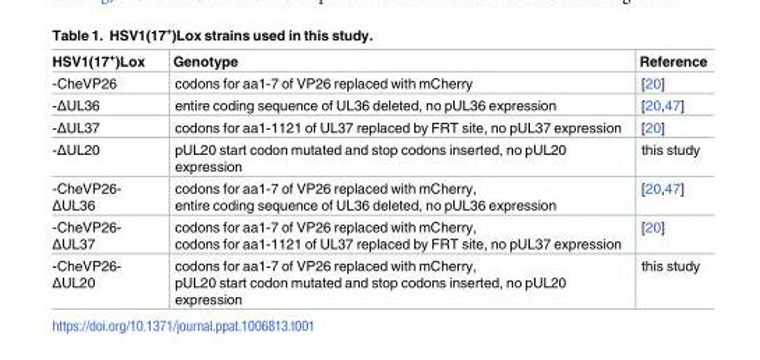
<table><thead><tr><td>HSV1(17<sup>+</sup>)Lox</td><td>Genotype</td><td>Reference</td></tr></thead><tbody><tr><td>-CheVP26</td><td>codons for aa1-7 of VP26 replaced with mCherry</td><td>[20]</td></tr><tr><td>-ΔUL36</td><td>entire coding sequence of UL36 deleted, no pUL36 expression</td><td>[20,47]</td></tr><tr><td>-ΔUL37</td><td>codons for aa1-1121 of UL37 replaced by FRT site, no pUL37 expression</td><td>[20]</td></tr><tr><td>-ΔUL20</td><td>pUL20 start codon mutated and stop codons inserted, no pUL20 expression</td><td>this study</td></tr><tr><td>-CheVP26- ΔUL36</td><td>codons for aa1-7 of VP26 replaced with mCherry, entire coding sequence of UL36 deleted, no pUL36 expression</td><td>[20,47]</td></tr><tr><td>-CheVP26- ΔUL37</td><td>codons for aa1-7 of VP26 replaced with mCherry, codons for aa1-1121 of UL37 replaced by FRT site, no pUL37 expression</td><td>[20]</td></tr><tr><td>-CheVP26- ΔUL20</td><td>codons for aa1-7 of VP26 replaced with mCherry, pUL20 start codon mutated and stop codons inserted, no pUL20 expression</td><td>this study</td></tr></tbody></table>